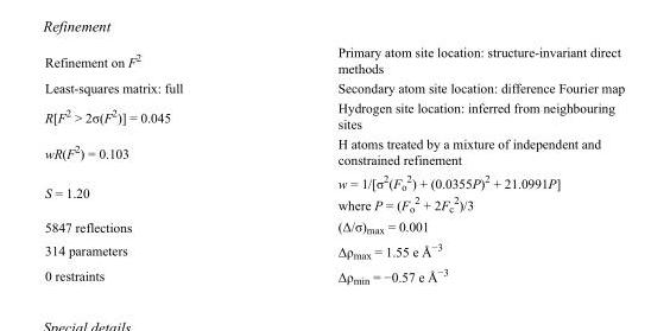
<table><tbody><tr><td>Refinement on F<sup>2</sup></td><td>Primary atom site location: structure-invariant direct methods</td></tr><tr><td>Least-squares matrix: full</td><td>Secondary atom site location: difference Fourier map</td></tr><tr><td>R[F<sup>2</sup> &gt; 2σ(F<sup>2</sup>)] = 0.045</td><td>Hydrogen site location: inferred from neighbouring sites</td></tr><tr><td>wR(F<sup>2</sup>) = 0.103</td><td>H atoms treated by a mixture of independent and constrained refinement</td></tr><tr><td>S = 1.20</td><td>w = 1/[σ<sup>2</sup>(F<sub>o</sub> <sup>2</sup>) + (0.0355P)<sup>2</sup> + 21.0991P] where P = (F<sub>o</sub> <sup>2</sup> + 2F<sub>c</sub> <sup>2</sup>)/3</td></tr><tr><td>5847 reflections</td><td>(Δ/σ)<sub>max</sub> = 0.001</td></tr><tr><td>314 parameters</td><td>Δρ<sub>max</sub> = 1.55 e Å<sup>−3</sup></td></tr><tr><td>0 restraints</td><td>Δρmin = −0.57 e Å−3</td></tr></tbody></table>